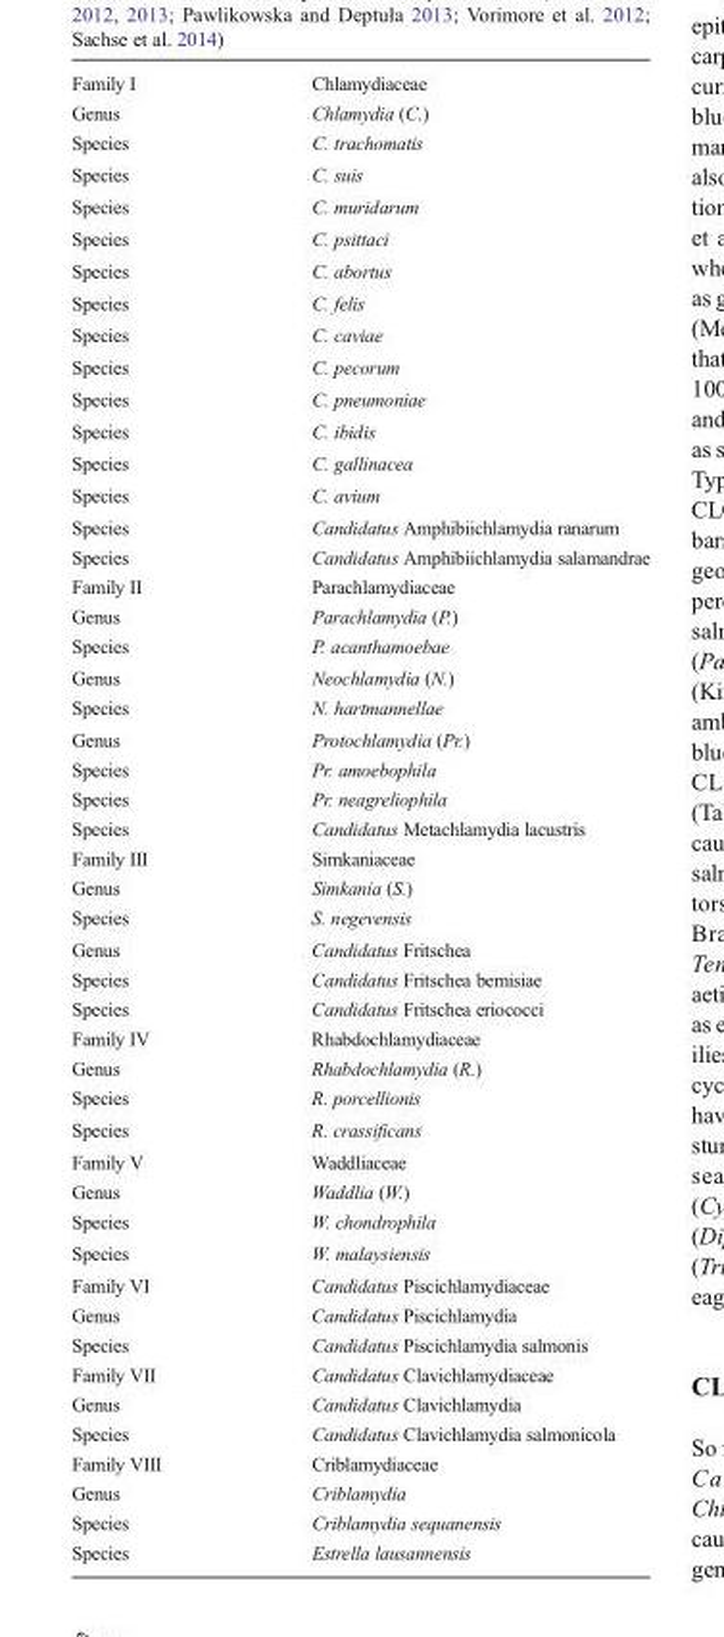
<table><tbody><tr><td>Family I</td><td>Chlamydiaceae</td></tr><tr><td>Genus</td><td>Chlamydia (C.)</td></tr><tr><td>Species</td><td>C. trachomatis</td></tr><tr><td>Species</td><td>C. suis</td></tr><tr><td>Species</td><td>C. muridarum</td></tr><tr><td>Species</td><td>C. psittaci</td></tr><tr><td>Species</td><td>C. abortus</td></tr><tr><td>Species</td><td>C. felis</td></tr><tr><td>Species</td><td>C. caviae</td></tr><tr><td>Species</td><td>C. pecorum</td></tr><tr><td>Species</td><td>C. pneumoniae</td></tr><tr><td>Species</td><td>C. ibidis</td></tr><tr><td>Species</td><td>C. gallinacea</td></tr><tr><td>Species</td><td>C. avium</td></tr><tr><td>Species</td><td>Candidatus Amphibiichlamydia ranarum</td></tr><tr><td>Species</td><td>Candidatus Amphibiichlamydia salamandrae</td></tr><tr><td>Family II</td><td>Parachlamydiaceae</td></tr><tr><td>Genus</td><td>Parachlamydia (P.)</td></tr><tr><td>Species</td><td>P. acanthamoebae</td></tr><tr><td>Genus</td><td>Neochlamydia (N.)</td></tr><tr><td>Species</td><td>N. hartmannellae</td></tr><tr><td>Genus</td><td>Protochlamydia (Pr.)</td></tr><tr><td>Species</td><td>Pr. amoebophila</td></tr><tr><td>Species</td><td>Pr. neagreliophila</td></tr><tr><td>Species</td><td>Candidatus Metachlamydia lacustris</td></tr><tr><td>Family III</td><td>Simkaniaceae</td></tr><tr><td>Genus</td><td>Simkania (S.)</td></tr><tr><td>Species</td><td>S. negevensis</td></tr><tr><td>Genus</td><td>Candidatus Fritschea</td></tr><tr><td>Species</td><td>Candidatus Fritschea bemisiae</td></tr><tr><td>Species</td><td>Candidatus Fritschea eriococci</td></tr><tr><td>Family IV</td><td>Rhabdochlamydiaceae</td></tr><tr><td>Genus</td><td>Rhabdochlamydia (R.)</td></tr><tr><td>Species</td><td>R. porcellionis</td></tr><tr><td>Species</td><td>R. crassificans</td></tr><tr><td>Family V</td><td>Waddliaceae</td></tr><tr><td>Genus</td><td>Waddlia (W.)</td></tr><tr><td>Species</td><td>W. chondrophila</td></tr><tr><td>Species</td><td>W. malaysiensis</td></tr><tr><td>Family VI</td><td>Candidatus Piscichlamydiaceae</td></tr><tr><td>Genus</td><td>Candidatus Piscichlamydia</td></tr><tr><td>Species</td><td>Candidatus Piscichlamydia salmonis</td></tr><tr><td>Family VII</td><td>Candidatus Clavichlamydiaceae</td></tr><tr><td>Genus</td><td>Candidatus Clavichlamydia</td></tr><tr><td>Species</td><td>Candidatus Clavichlamydia salmonicola</td></tr><tr><td>Family VIII</td><td>Criblamydiaceae</td></tr><tr><td>Genus</td><td>Criblamydia</td></tr><tr><td>Species</td><td>Criblamydia sequanensis</td></tr><tr><td>Species</td><td>Estrella lausannensis</td></tr></tbody></table>